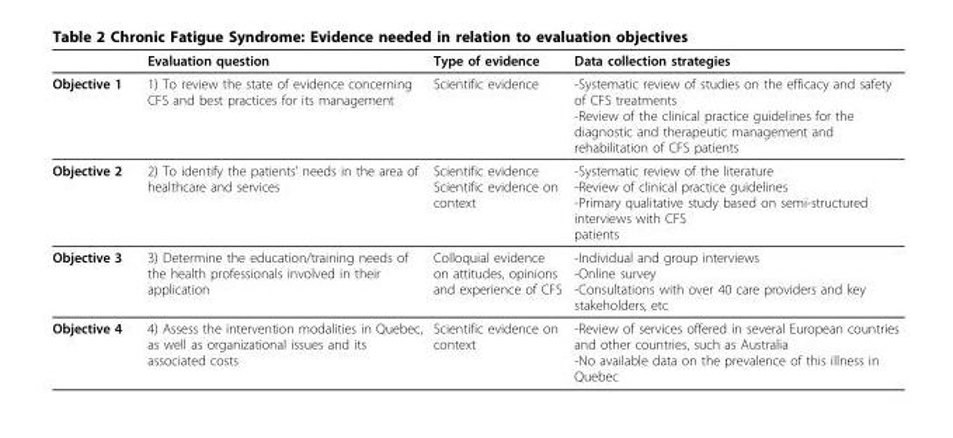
<table><thead><tr><td></td><td>Evaluation question</td><td>Type of evidence</td><td>Data collection strategies</td></tr></thead><tbody><tr><td>Objective 1</td><td>1) To review the state of evidence concerning CFS and best practices for its management</td><td>Scientific evidence</td><td>-Systematic review of studies on the efficacy and safety of CFS treatments -Review of the clinical practice guidelines for the diagnostic and therapeutic management and rehabilitation of CFS patients</td></tr><tr><td>Objective 2</td><td>2) To identify the patients’ needs in the area of healthcare and services</td><td>Scientific evidence Scientific evidence on context</td><td>-Systematic review of the literature -Review of clinical practice guidelines -Primary qualitative study based on semi-structured interviews with CFS patients</td></tr><tr><td>Objective 3</td><td>3) Determine the education/training needs of the health professionals involved in their application</td><td>Colloquial evidence on attitudes, opinions and experience of CFS</td><td>-Individual and group interviews -Online survey -Consultations with over 40 care providers and key stakeholders, etc</td></tr><tr><td>Objective 4</td><td>4) Assess the intervention modalities in Quebec, as well as organizational issues and its associated costs</td><td>Scientific evidence on context</td><td>-Review of services offered in several European countries and other countries, such as Australia -No available data on the prevalence of this illness in Quebec</td></tr></tbody></table>